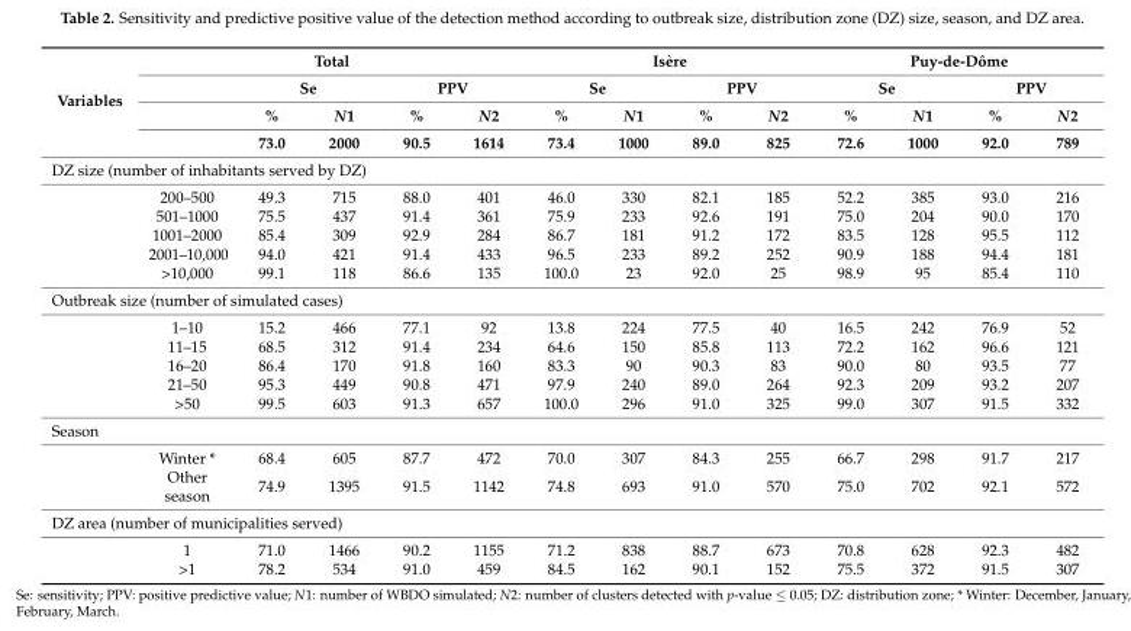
<table><thead><tr><td rowspan="4">Variables</td><td colspan="5">Total</td><td colspan="4">Isère</td><td colspan="4">Puy-de-Dôme</td></tr><tr><td rowspan="3"></td><td colspan="2">Se</td><td colspan="2">PPV</td><td colspan="2">Se</td><td colspan="2">PPV</td><td colspan="2">Se</td><td colspan="2">PPV</td></tr><tr><td rowspan="2">% 73.0</td><td rowspan="2">N1 2000</td><td rowspan="2">% 90.5</td><td rowspan="2">N2 1614</td><td rowspan="2">% 73.4</td><td rowspan="2">N1 1000</td><td rowspan="2">% 89.0</td><td rowspan="2">N2 825</td><td rowspan="2">% 72.6</td><td rowspan="2">N1 1000</td><td rowspan="2">% 92.0</td><td rowspan="2">N2 789</td></tr><tr></tr></thead><tbody><tr><td colspan="14">DZ size (number of inhabitants served by DZ)</td></tr><tr><td></td><td>200–500</td><td>49.3</td><td>715</td><td>88.0</td><td>401</td><td>46.0</td><td>330</td><td>82.1</td><td>185</td><td>52.2</td><td>385</td><td>93.0</td><td>216</td></tr><tr><td></td><td>501–1000</td><td>75.5</td><td>437</td><td>91.4</td><td>361</td><td>75.9</td><td>233</td><td>92.6</td><td>191</td><td>75.0</td><td>204</td><td>90.0</td><td>170</td></tr><tr><td></td><td>1001–2000</td><td>85.4</td><td>309</td><td>92.9</td><td>284</td><td>86.7</td><td>181</td><td>91.2</td><td>172</td><td>83.5</td><td>128</td><td>95.5</td><td>112</td></tr><tr><td></td><td>2001–10,000</td><td>94.0</td><td>421</td><td>91.4</td><td>433</td><td>96.5</td><td>233</td><td>89.2</td><td>252</td><td>90.9</td><td>188</td><td>94.4</td><td>181</td></tr><tr><td></td><td>&gt;10,000</td><td>99.1</td><td>118</td><td>86.6</td><td>135</td><td>100.0</td><td>23</td><td>92.0</td><td>25</td><td>98.9</td><td>95</td><td>85.4</td><td>110</td></tr><tr><td colspan="14">Outbreak size (number of simulated cases)</td></tr><tr><td></td><td>1–10</td><td>15.2</td><td>466</td><td>77.1</td><td>92</td><td>13.8</td><td>224</td><td>77.5</td><td>40</td><td>16.5</td><td>242</td><td>76.9</td><td>52</td></tr><tr><td></td><td>11–15</td><td>68.5</td><td>312</td><td>91.4</td><td>234</td><td>64.6</td><td>150</td><td>85.8</td><td>113</td><td>72.2</td><td>162</td><td>96.6</td><td>121</td></tr><tr><td></td><td>16–20</td><td>86.4</td><td>170</td><td>91.8</td><td>160</td><td>83.3</td><td>90</td><td>90.3</td><td>83</td><td>90.0</td><td>80</td><td>93.5</td><td>77</td></tr><tr><td></td><td>21–50</td><td>95.3</td><td>449</td><td>90.8</td><td>471</td><td>97.9</td><td>240</td><td>89.0</td><td>264</td><td>92.3</td><td>209</td><td>93.2</td><td>207</td></tr><tr><td></td><td>&gt;50</td><td>99.5</td><td>603</td><td>91.3</td><td>657</td><td>100.0</td><td>296</td><td>91.0</td><td>325</td><td>99.0</td><td>307</td><td>91.5</td><td>332</td></tr><tr><td colspan="14">Season</td></tr><tr><td></td><td>Winter *</td><td>68.4</td><td>605</td><td>87.7</td><td>472</td><td>70.0</td><td>307</td><td>84.3</td><td>255</td><td>66.7</td><td>298</td><td>91.7</td><td>217</td></tr><tr><td></td><td>Other season</td><td>74.9</td><td>1395</td><td>91.5</td><td>1142</td><td>74.8</td><td>693</td><td>91.0</td><td>570</td><td>75.0</td><td>702</td><td>92.1</td><td>572</td></tr><tr><td colspan="14">DZ area (number of municipalities served)</td></tr><tr><td></td><td>1</td><td>71.0</td><td>1466</td><td>90.2</td><td>1155</td><td>71.2</td><td>838</td><td>88.7</td><td>673</td><td>70.8</td><td>628</td><td>92.3</td><td>482</td></tr><tr><td></td><td>&gt;1</td><td>78.2</td><td>534</td><td>91.0</td><td>459</td><td>84.5</td><td>162</td><td>90.1</td><td>152</td><td>75.5</td><td>372</td><td>91.5</td><td>307</td></tr></tbody></table>